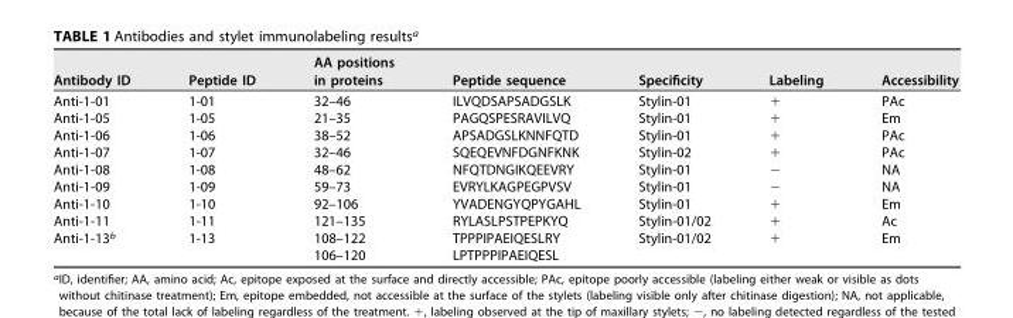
<table><thead><tr><td>Antibody ID</td><td>Peptide ID</td><td>AA positions in proteins</td><td>Peptide sequence</td><td>Specificity</td><td>Labeling</td><td>Accessibility</td></tr></thead><tbody><tr><td>Anti-1-01</td><td>1-01</td><td>32–46</td><td>ILVQDSAPSADGSLK</td><td>Stylin-01</td><td>+</td><td>PAc</td></tr><tr><td>Anti-1-05</td><td>1-05</td><td>21–35</td><td>PAGQSPESRAVILVQ</td><td>Stylin-01</td><td>+</td><td>Em</td></tr><tr><td>Anti-1-06</td><td>1-06</td><td>38–52</td><td>APSADGSLKNNFQTD</td><td>Stylin-01</td><td>+</td><td>PAc</td></tr><tr><td>Anti-1-07</td><td>1-07</td><td>32–46</td><td>SQEQEVNFDGNFKNK</td><td>Stylin-02</td><td>+</td><td>PAc</td></tr><tr><td>Anti-1-08</td><td>1-08</td><td>48–62</td><td>NFQTDNGIKQEEVRY</td><td>Stylin-01</td><td>−</td><td>NA</td></tr><tr><td>Anti-1-09</td><td>1-09</td><td>59–73</td><td>EVRYLKAGPEGPVSV</td><td>Stylin-01</td><td>−</td><td>NA</td></tr><tr><td>Anti-1-10</td><td>1-10</td><td>92–106</td><td>YVADENGYQPYGAHL</td><td>Stylin-01</td><td>+</td><td>Em</td></tr><tr><td>Anti-1-11</td><td>1-11</td><td>121–135</td><td>RYLASLPSTPEPKYQ</td><td>Stylin-01/02</td><td>+</td><td>Ac</td></tr><tr><td rowspan="2">Anti-1-13<sup>b</sup></td><td>1-13</td><td>108–122</td><td>TPPPIPAEIQESLRY</td><td>Stylin-01/02</td><td>+</td><td>Em</td></tr><tr><td></td><td>106–120</td><td>LPTPPPIPAEIQESL</td><td></td><td></td><td></td></tr></tbody></table>